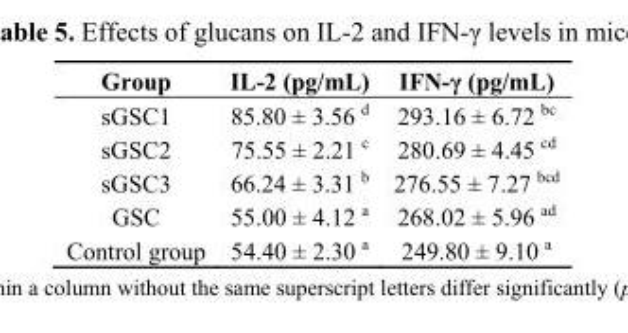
<table><thead><tr><td>Group</td><td>IL-2 (pg/mL)</td><td>IFN-γ (pg/mL)</td></tr></thead><tbody><tr><td>sGSC1</td><td>85.80 ± 3.56 <sup>d</sup></td><td>293.16 ± 6.72 <sup>bc</sup></td></tr><tr><td>sGSC2</td><td>75.55 ± 2.21 <sup>c</sup></td><td>280.69 ± 4.45 <sup>cd</sup></td></tr><tr><td>sGSC3</td><td>66.24 ± 3.31 <sup>b</sup></td><td>276.55 ± 7.27 <sup>bcd</sup></td></tr><tr><td>GSC</td><td>55.00 ± 4.12 <sup>a</sup></td><td>268.02 ± 5.96 <sup>ad</sup></td></tr><tr><td>Control group</td><td>54.40 ± 2.30 <sup>a</sup></td><td>249.80 ± 9.10 <sup>a</sup></td></tr></tbody></table>